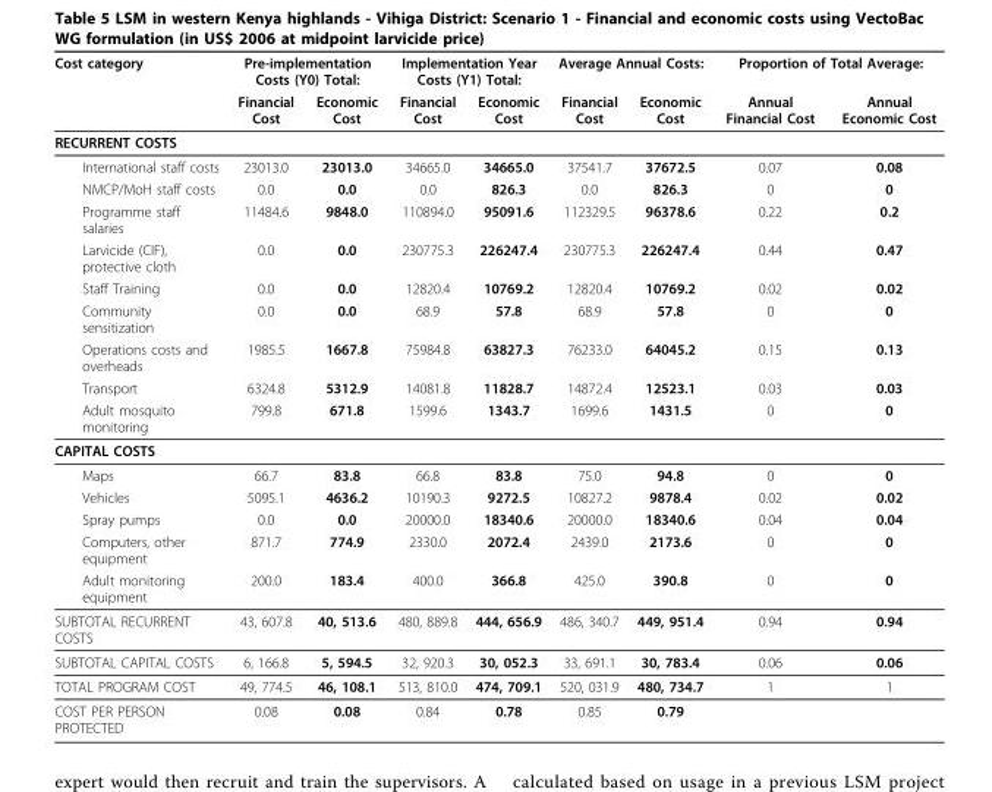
<table><thead><tr><td rowspan="2">Cost category</td><td colspan="2">Pre-implementation Costs (Y0) Total:</td><td colspan="2">Implementation Year Costs (Y1) Total:</td><td colspan="2">Average Annual Costs:</td><td colspan="2">Proportion of Total Average:</td></tr><tr><td>Financial Cost</td><td>Economic Cost</td><td>Financial Cost</td><td>Economic Cost</td><td>Financial Cost</td><td>Economic Cost</td><td>Annual Financial Cost</td><td>Annual Economic Cost</td></tr></thead><tbody><tr><td colspan="9">RECURRENT COSTS</td></tr><tr><td>International staff costs</td><td>23013.0</td><td>23013.0</td><td>34665.0</td><td>34665.0</td><td>37541.7</td><td>37672.5</td><td>0.07</td><td>0.08</td></tr><tr><td>NMCP/MoH staff costs</td><td>0.0</td><td>0.0</td><td>0.0</td><td>826.3</td><td>0.0</td><td>826.3</td><td>0</td><td>0</td></tr><tr><td>Programme staff salaries</td><td>11484.6</td><td>9848.0</td><td>110894.0</td><td>95091.6</td><td>112329.5</td><td>96378.6</td><td>0.22</td><td>0.2</td></tr><tr><td>Larvicide (CIF), protective cloth</td><td>0.0</td><td>0.0</td><td>230775.3</td><td>226247.4</td><td>230775.3</td><td>226247.4</td><td>0.44</td><td>0.47</td></tr><tr><td>Staff Training</td><td>0.0</td><td>0.0</td><td>12820.4</td><td>10769.2</td><td>12820.4</td><td>10769.2</td><td>0.02</td><td>0.02</td></tr><tr><td>Community sensitization</td><td>0.0</td><td>0.0</td><td>68.9</td><td>57.8</td><td>68.9</td><td>57.8</td><td>0</td><td>0</td></tr><tr><td>Operations costs and overheads</td><td>1985.5</td><td>1667.8</td><td>75984.8</td><td>63827.3</td><td>76233.0</td><td>64045.2</td><td>0.15</td><td>0.13</td></tr><tr><td>Transport</td><td>6324.8</td><td>5312.9</td><td>14081.8</td><td>11828.7</td><td>14872.4</td><td>12523.1</td><td>0.03</td><td>0.03</td></tr><tr><td>Adult mosquito monitoring</td><td>799.8</td><td>671.8</td><td>1599.6</td><td>1343.7</td><td>1699.6</td><td>1431.5</td><td>0</td><td>0</td></tr><tr><td colspan="9">CAPITAL COSTS</td></tr><tr><td>Maps</td><td>66.7</td><td>83.8</td><td>66.8</td><td>83.8</td><td>75.0</td><td>94.8</td><td>0</td><td>0</td></tr><tr><td>Vehicles</td><td>5095.1</td><td>4636.2</td><td>10190.3</td><td>9272.5</td><td>10827.2</td><td>9878.4</td><td>0.02</td><td>0.02</td></tr><tr><td>Spray pumps</td><td>0.0</td><td>0.0</td><td>20000.0</td><td>18340.6</td><td>20000.0</td><td>18340.6</td><td>0.04</td><td>0.04</td></tr><tr><td>Computers, other equipment</td><td>871.7</td><td>774.9</td><td>2330.0</td><td>2072.4</td><td>2439.0</td><td>2173.6</td><td>0</td><td>0</td></tr><tr><td>Adult monitoring equipment</td><td>200.0</td><td>183.4</td><td>400.0</td><td>366.8</td><td>425.0</td><td>390.8</td><td>0</td><td>0</td></tr><tr><td>SUBTOTAL RECURRENT COSTS</td><td>43, 607.8</td><td>40, 513.6</td><td>480, 889.8</td><td>444, 656.9</td><td>486, 340.7</td><td>449, 951.4</td><td>0.94</td><td>0.94</td></tr><tr><td>SUBTOTAL CAPITAL COSTS</td><td>6, 166.8</td><td>5, 594.5</td><td>32, 920.3</td><td>30, 052.3</td><td>33, 691.1</td><td>30, 783.4</td><td>0.06</td><td>0.06</td></tr><tr><td>TOTAL PROGRAM COST</td><td>49, 774.5</td><td>46, 108.1</td><td>513, 810.0</td><td>474, 709.1</td><td>520, 031.9</td><td>480, 734.7</td><td>1</td><td>1</td></tr><tr><td>COST PER PERSON PROTECTED</td><td>0.08</td><td>0.08</td><td>0.84</td><td>0.78</td><td>0.85</td><td>0.79</td><td></td><td></td></tr></tbody></table>